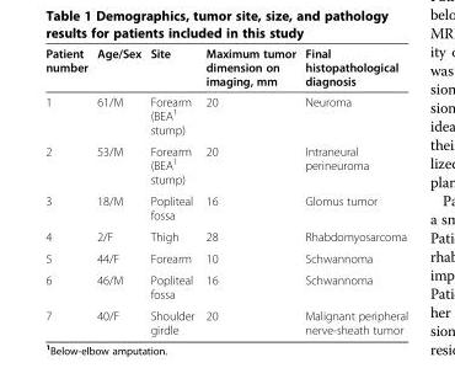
<table><thead><tr><td>Patient number</td><td>Age/Sex</td><td>Site</td><td>Maximum tumor dimension on imaging, mm</td><td>Final histopathological diagnosis</td></tr></thead><tbody><tr><td>1</td><td>61/M</td><td>Forearm (BEA<sup>1</sup> stump)</td><td>20</td><td>Neuroma</td></tr><tr><td>2</td><td>53/M</td><td>Forearm (BEA<sup>1</sup> stump)</td><td>20</td><td>Intraneural perineuroma</td></tr><tr><td>3</td><td>18/M</td><td>Popliteal fossa</td><td>16</td><td>Glomus tumor</td></tr><tr><td>4</td><td>2/F</td><td>Thigh</td><td>28</td><td>Rhabdomyosarcoma</td></tr><tr><td>5</td><td>44/F</td><td>Forearm</td><td>10</td><td>Schwannoma</td></tr><tr><td>6</td><td>46/M</td><td>Popliteal fossa</td><td>16</td><td>Schwannoma</td></tr><tr><td>7</td><td>40/F</td><td>Shoulder girdle</td><td>20</td><td>Malignant peripheral nerve-sheath tumor</td></tr></tbody></table>